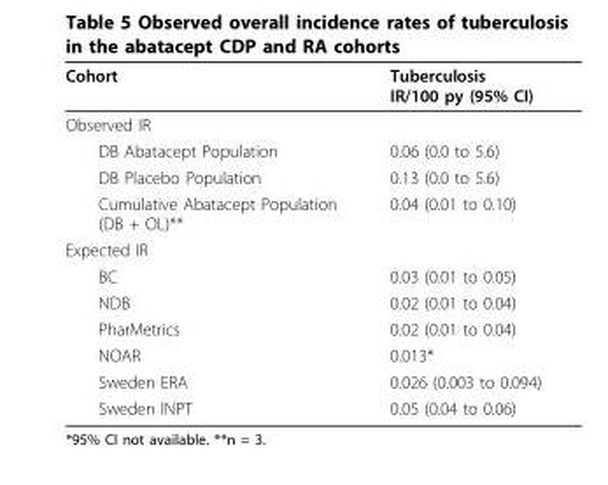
<table><thead><tr><td>Cohort</td><td>Tuberculosis IR/100 py (95% CI)</td></tr></thead><tbody><tr><td colspan="2">Observed IR</td></tr><tr><td>DB Abatacept Population</td><td>0.06 (0.0 to 5.6)</td></tr><tr><td>DB Placebo Population</td><td>0.13 (0.0 to 5.6)</td></tr><tr><td>Cumulative Abatacept Population (DB + OL)**</td><td>0.04 (0.01 to 0.10)</td></tr><tr><td colspan="2">Expected IR</td></tr><tr><td>BC</td><td>0.03 (0.01 to 0.05)</td></tr><tr><td>NDB</td><td>0.02 (0.01 to 0.04)</td></tr><tr><td>PharMetrics</td><td>0.02 (0.01 to 0.04)</td></tr><tr><td>NOAR</td><td>0.013*</td></tr><tr><td>Sweden ERA</td><td>0.026 (0.003 to 0.094)</td></tr><tr><td>Sweden INPT</td><td>0.05 (0.04 to 0.06)</td></tr></tbody></table>